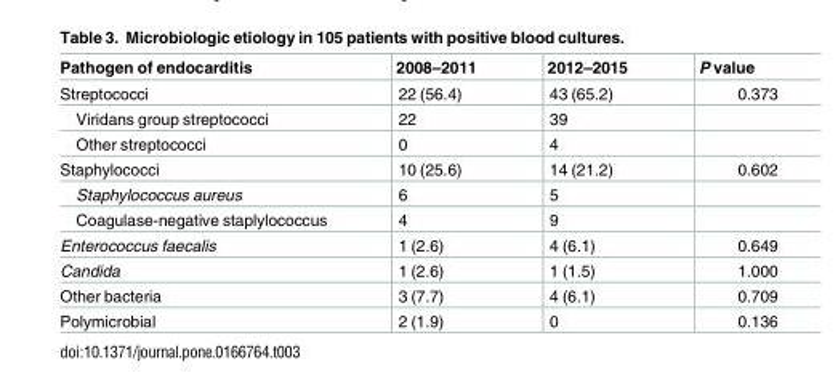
<table><thead><tr><td>Pathogen of endocarditis</td><td>2008–2011</td><td>2012–2015</td><td>P value</td></tr></thead><tbody><tr><td>Streptococci</td><td>22 (56.4)</td><td>43 (65.2)</td><td>0.373</td></tr><tr><td>Viridans group streptococci</td><td>22</td><td>39</td><td></td></tr><tr><td>Other streptococci</td><td>0</td><td>4</td><td></td></tr><tr><td>Staphylococci</td><td>10 (25.6)</td><td>14 (21.2)</td><td>0.602</td></tr><tr><td>Staphylococcus aureus</td><td>6</td><td>5</td><td></td></tr><tr><td>Coagulase-negative staplylococcus</td><td>4</td><td>9</td><td></td></tr><tr><td>Enterococcus faecalis</td><td>1 (2.6)</td><td>4 (6.1)</td><td>0.649</td></tr><tr><td>Candida</td><td>1 (2.6)</td><td>1 (1.5)</td><td>1.000</td></tr><tr><td>Other bacteria</td><td>3 (7.7)</td><td>4 (6.1)</td><td>0.709</td></tr><tr><td>Polymicrobial</td><td>2 (1.9)</td><td>0</td><td>0.136</td></tr></tbody></table>